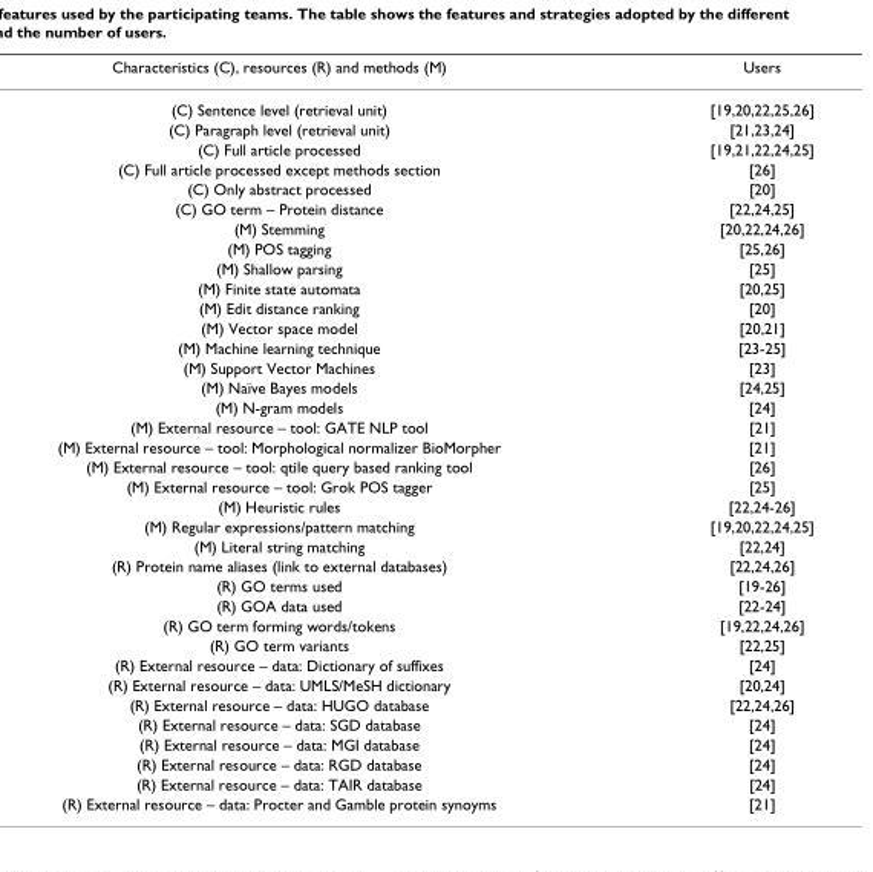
<table><thead><tr><td>Characteristics (C), resources (R) and methods (M)</td><td>Users</td></tr></thead><tbody><tr><td>(C) Sentence level (retrieval unit)</td><td>[19,20,22,25,26]</td></tr><tr><td>(C) Paragraph level (retrieval unit)</td><td>[21,23,24]</td></tr><tr><td>(C) Full article processed</td><td>[19,21,22,24,25]</td></tr><tr><td>(C) Full article processed except methods section</td><td>[26]</td></tr><tr><td>(C) Only abstract processed</td><td>[20]</td></tr><tr><td>(C) GO term – Protein distance</td><td>[22,24,25]</td></tr><tr><td>(M) Stemming</td><td>[20,22,24,26]</td></tr><tr><td>(M) POS tagging</td><td>[25,26]</td></tr><tr><td>(M) Shallow parsing</td><td>[25]</td></tr><tr><td>(M) Finite state automata</td><td>[20,25]</td></tr><tr><td>(M) Edit distance ranking</td><td>[20]</td></tr><tr><td>(M) Vector space model</td><td>[20,21]</td></tr><tr><td>(M) Machine learning technique</td><td>[23-25]</td></tr><tr><td>(M) Support Vector Machines</td><td>[23]</td></tr><tr><td>(M) Naïve Bayes models</td><td>[24,25]</td></tr><tr><td>(M) N-gram models</td><td>[24]</td></tr><tr><td>(M) External resource – tool: GATE NLP tool</td><td>[21]</td></tr><tr><td>(M) External resource – tool: Morphological normalizer BioMorpher</td><td>[21]</td></tr><tr><td>(M) External resource – tool: qtile query based ranking tool</td><td>[26]</td></tr><tr><td>(M) External resource – tool: Grok POS tagger</td><td>[25]</td></tr><tr><td>(M) Heuristic rules</td><td>[22,24-26]</td></tr><tr><td>(M) Regular expressions/pattern matching</td><td>[19,20,22,24,25]</td></tr><tr><td>(M) Literal string matching</td><td>[22,24]</td></tr><tr><td>(R) Protein name aliases (link to external databases)</td><td>[22,24,26]</td></tr><tr><td>(R) GO terms used</td><td>[19-26]</td></tr><tr><td>(R) GOA data used</td><td>[22-24]</td></tr><tr><td>(R) GO term forming words/tokens</td><td>[19,22,24,26]</td></tr><tr><td>(R) GO term variants</td><td>[22,25]</td></tr><tr><td>(R) External resource – data: Dictionary of suffixes</td><td>[24]</td></tr><tr><td>(R) External resource – data: UMLS/MeSH dictionary</td><td>[20,24]</td></tr><tr><td>(R) External resource – data: HUGO database</td><td>[22,24,26]</td></tr><tr><td>(R) External resource – data: SGD database</td><td>[24]</td></tr><tr><td>(R) External resource – data: MGI database</td><td>[24]</td></tr><tr><td>(R) External resource – data: RGD database</td><td>[24]</td></tr><tr><td>(R) External resource – data: TAIR database</td><td>[24]</td></tr><tr><td>(R) External resource – data: Procter and Gamble protein synoyms</td><td>[21]</td></tr></tbody></table>